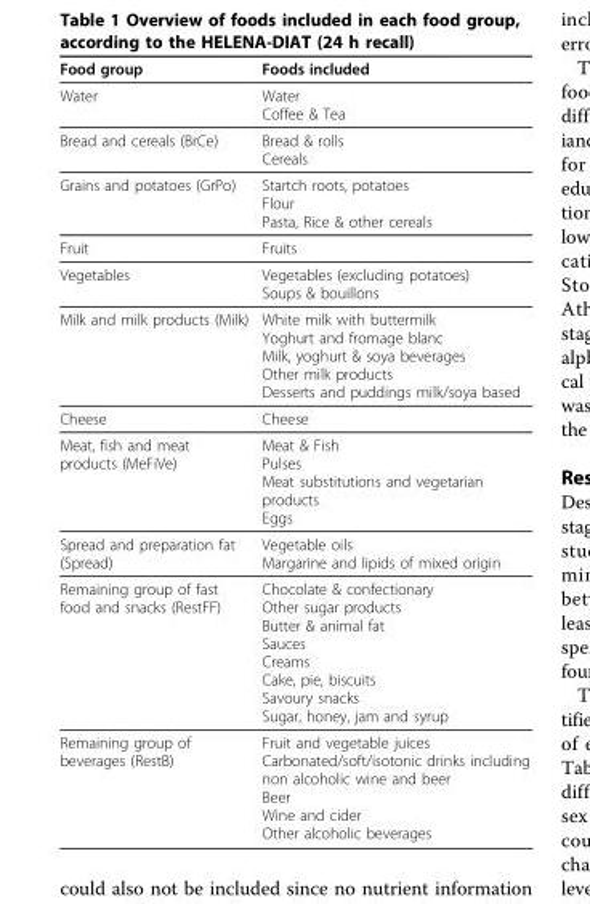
<table><thead><tr><td>Food group</td><td>Foods included</td></tr></thead><tbody><tr><td>Water</td><td>Water Coffee &amp; Tea</td></tr><tr><td>Bread and cereals (BrCe)</td><td>Bread &amp; rolls Cereals</td></tr><tr><td>Grains and potatoes (GrPo)</td><td>Startch roots, potatoes Flour Pasta, Rice &amp; other cereals</td></tr><tr><td>Fruit</td><td>Fruits</td></tr><tr><td>Vegetables</td><td>Vegetables (excluding potatoes) Soups &amp; bouillons</td></tr><tr><td>Milk and milk products (Milk)</td><td>White milk with buttermilk Yoghurt and fromage blanc Milk, yoghurt &amp; soya beverages Other milk products Desserts and puddings milk/soya based</td></tr><tr><td>Cheese</td><td>Cheese</td></tr><tr><td>Meat, fish and meat products (MeFiVe)</td><td>Meat &amp; Fish Pulses Meat substitutions and vegetarian products Eggs</td></tr><tr><td>Spread and preparation fat (Spread)</td><td>Vegetable oils Margarine and lipids of mixed origin</td></tr><tr><td>Remaining group of fast food and snacks (RestFF)</td><td>Chocolate &amp; confectionary Other sugar products Butter &amp; animal fat Sauces Creams Cake, pie, biscuits Savoury snacks Sugar, honey, jam and syrup</td></tr><tr><td>Remaining group of beverages (RestB)</td><td>Fruit and vegetable juices Carbonated/soft/isotonic drinks including non alcoholic wine and beer Beer Wine and cider Other alcoholic beverages</td></tr></tbody></table>